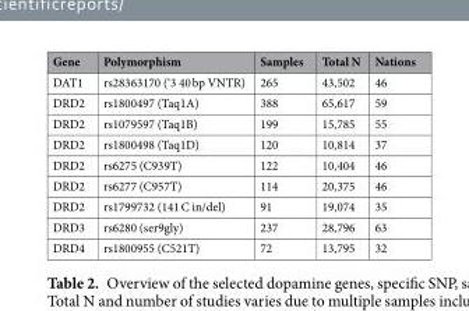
<table><thead><tr><td>Gene</td><td>Polymorphism</td><td>Samples</td><td>Total N</td><td>Nations</td></tr></thead><tbody><tr><td>DAT1</td><td>rs28363170 (‘3 40 bp VNTR)</td><td>265</td><td>43,502</td><td>46</td></tr><tr><td>DRD2</td><td>rs1800497 (Taq1A)</td><td>388</td><td>65,617</td><td>59</td></tr><tr><td>DRD2</td><td>rs1079597 (Taq1B)</td><td>199</td><td>15,785</td><td>55</td></tr><tr><td>DRD2</td><td>rs1800498 (Taq1D)</td><td>120</td><td>10,814</td><td>37</td></tr><tr><td>DRD2</td><td>rs6275 (C939T)</td><td>122</td><td>10,404</td><td>46</td></tr><tr><td>DRD2</td><td>rs6277 (C957T)</td><td>114</td><td>20,375</td><td>46</td></tr><tr><td>DRD2</td><td>rs1799732 (141 C in/del)</td><td>91</td><td>19,074</td><td>35</td></tr><tr><td>DRD3</td><td>rs6280 (ser9gly)</td><td>237</td><td>28,796</td><td>63</td></tr><tr><td>DRD4</td><td>rs1800955 (C521T)</td><td>72</td><td>13,795</td><td>32</td></tr></tbody></table>